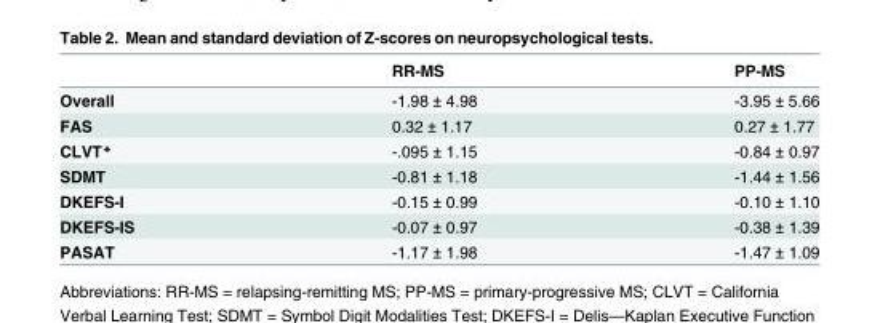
<table><thead><tr><td></td><td>RR-MS</td><td>PP-MS</td></tr></thead><tbody><tr><td>Overall</td><td>-1.98 ± 4.98</td><td>-3.95 ± 5.66</td></tr><tr><td>FAS</td><td>0.32 ± 1.17</td><td>0.27 ± 1.77</td></tr><tr><td>CLVT*</td><td>-.095 ± 1.15</td><td>-0.84 ± 0.97</td></tr><tr><td>SDMT</td><td>-0.81 ± 1.18</td><td>-1.44 ± 1.56</td></tr><tr><td>DKEFS-I</td><td>-0.15 ± 0.99</td><td>-0.10 ± 1.10</td></tr><tr><td>DKEFS-IS</td><td>-0.07 ± 0.97</td><td>-0.38 ± 1.39</td></tr><tr><td>PASAT</td><td>-1.17 ± 1.98</td><td>-1.47 ± 1.09</td></tr></tbody></table>